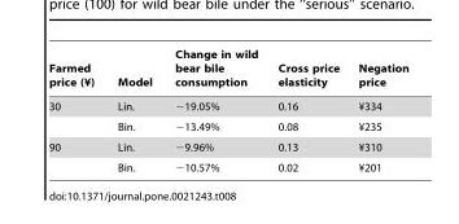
<table><thead><tr><td>Farmed price (¥)</td><td>Model</td><td>Change in wild bear bile consumption</td><td>Cross price elasticity</td><td>Negation price</td></tr></thead><tbody><tr><td rowspan="2">30</td><td>Lin.</td><td>−19.05%</td><td>0.16</td><td>¥334</td></tr><tr><td>Bin.</td><td>−13.49%</td><td>0.08</td><td>¥235</td></tr><tr><td rowspan="2">90</td><td>Lin.</td><td>−9.96%</td><td>0.13</td><td>¥310</td></tr><tr><td>Bin.</td><td>−10.57%</td><td>0.02</td><td>¥201</td></tr></tbody></table>